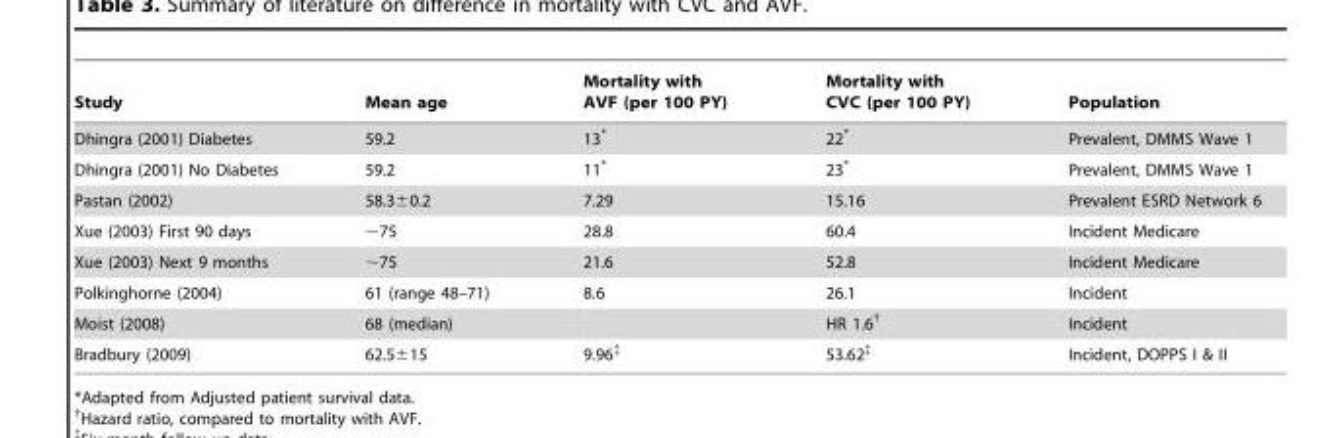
<table><thead><tr><td>Study</td><td>Mean age</td><td>Mortality with AVF (per 100 PY)</td><td>Mortality with CVC (per 100 PY)</td><td>Population</td></tr></thead><tbody><tr><td>Dhingra (2001) Diabetes</td><td>59.2</td><td>13*</td><td>22*</td><td>Prevalent, DMMS Wave 1</td></tr><tr><td>Dhingra (2001) No Diabetes</td><td>59.2</td><td>11*</td><td>23*</td><td>Prevalent, DMMS Wave 1</td></tr><tr><td>Pastan (2002)</td><td>58.3±0.2</td><td>7.29</td><td>15.16</td><td>Prevalent ESRD Network 6</td></tr><tr><td>Xue (2003) First 90 days</td><td>∼75</td><td>28.8</td><td>60.4</td><td>Incident Medicare</td></tr><tr><td>Xue (2003) Next 9 months</td><td>∼75</td><td>21.6</td><td>52.8</td><td>Incident Medicare</td></tr><tr><td>Polkinghorne (2004)</td><td>61 (range 48–71)</td><td>8.6</td><td>26.1</td><td>Incident</td></tr><tr><td>Moist (2008)</td><td>68 (median)</td><td></td><td>HR 1.6†</td><td>Incident</td></tr><tr><td>Bradbury (2009)</td><td>62.5±15</td><td>9.96‡</td><td>53.62‡</td><td>Incident, DOPPS I &amp; II</td></tr></tbody></table>